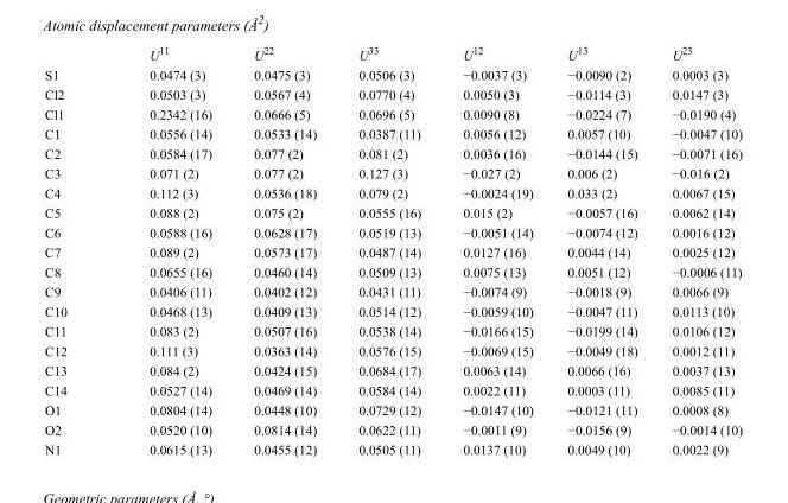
<table><thead><tr><td></td><td>U<sup>11</sup></td><td>U<sup>22</sup></td><td>U<sup>33</sup></td><td>U<sup>12</sup></td><td>U<sup>13</sup></td><td>U<sup>23</sup></td></tr></thead><tbody><tr><td>S1</td><td>0.0474 (3)</td><td>0.0475 (3)</td><td>0.0506 (3)</td><td>−0.0037 (3)</td><td>−0.0090 (2)</td><td>0.0003 (3)</td></tr><tr><td>Cl2</td><td>0.0503 (3)</td><td>0.0567 (4)</td><td>0.0770 (4)</td><td>0.0050 (3)</td><td>−0.0114 (3)</td><td>0.0147 (3)</td></tr><tr><td>Cl1</td><td>0.2342 (16)</td><td>0.0666 (5)</td><td>0.0696 (5)</td><td>0.0090 (8)</td><td>−0.0224 (7)</td><td>−0.0190 (4)</td></tr><tr><td>C1</td><td>0.0556 (14)</td><td>0.0533 (14)</td><td>0.0387 (11)</td><td>0.0056 (12)</td><td>0.0057 (10)</td><td>−0.0047 (10)</td></tr><tr><td>C2</td><td>0.0584 (17)</td><td>0.077 (2)</td><td>0.081 (2)</td><td>0.0036 (16)</td><td>−0.0144 (15)</td><td>−0.0071 (16)</td></tr><tr><td>C3</td><td>0.071 (2)</td><td>0.077 (2)</td><td>0.127 (3)</td><td>−0.027 (2)</td><td>0.006 (2)</td><td>−0.016 (2)</td></tr><tr><td>C4</td><td>0.112 (3)</td><td>0.0536 (18)</td><td>0.079 (2)</td><td>−0.0024 (19)</td><td>0.033 (2)</td><td>0.0067 (15)</td></tr><tr><td>C5</td><td>0.088 (2)</td><td>0.075 (2)</td><td>0.0555 (16)</td><td>0.015 (2)</td><td>−0.0057 (16)</td><td>0.0062 (14)</td></tr><tr><td>C6</td><td>0.0588 (16)</td><td>0.0628 (17)</td><td>0.0519 (13)</td><td>−0.0051 (14)</td><td>−0.0074 (12)</td><td>0.0016 (12)</td></tr><tr><td>C7</td><td>0.089 (2)</td><td>0.0573 (17)</td><td>0.0487 (14)</td><td>0.0127 (16)</td><td>0.0044 (14)</td><td>0.0025 (12)</td></tr><tr><td>C8</td><td>0.0655 (16)</td><td>0.0460 (14)</td><td>0.0509 (13)</td><td>0.0075 (13)</td><td>0.0051 (12)</td><td>−0.0006 (11)</td></tr><tr><td>C9</td><td>0.0406 (11)</td><td>0.0402 (12)</td><td>0.0431 (11)</td><td>−0.0074 (9)</td><td>−0.0018 (9)</td><td>0.0066 (9)</td></tr><tr><td>C10</td><td>0.0468 (13)</td><td>0.0409 (13)</td><td>0.0514 (12)</td><td>−0.0059 (10)</td><td>−0.0047 (11)</td><td>0.0113 (10)</td></tr><tr><td>C11</td><td>0.083 (2)</td><td>0.0507 (16)</td><td>0.0538 (14)</td><td>−0.0166 (15)</td><td>−0.0199 (14)</td><td>0.0106 (12)</td></tr><tr><td>C12</td><td>0.111 (3)</td><td>0.0363 (14)</td><td>0.0576 (15)</td><td>−0.0069 (15)</td><td>−0.0049 (18)</td><td>0.0012 (11)</td></tr><tr><td>C13</td><td>0.084 (2)</td><td>0.0424 (15)</td><td>0.0684 (17)</td><td>0.0063 (14)</td><td>0.0066 (16)</td><td>0.0037 (13)</td></tr><tr><td>C14</td><td>0.0527 (14)</td><td>0.0469 (14)</td><td>0.0584 (14)</td><td>0.0022 (11)</td><td>0.0003 (11)</td><td>0.0085 (11)</td></tr><tr><td>O1</td><td>0.0804 (14)</td><td>0.0448 (10)</td><td>0.0729 (12)</td><td>−0.0147 (10)</td><td>−0.0121 (11)</td><td>0.0008 (8)</td></tr><tr><td>O2</td><td>0.0520 (10)</td><td>0.0814 (14)</td><td>0.0622 (11)</td><td>−0.0011 (9)</td><td>−0.0156 (9)</td><td>−0.0014 (10)</td></tr><tr><td>N1</td><td>0.0615 (13)</td><td>0.0455 (12)</td><td>0.0505 (11)</td><td>0.0137 (10)</td><td>0.0049 (10)</td><td>0.0022 (9)</td></tr></tbody></table>